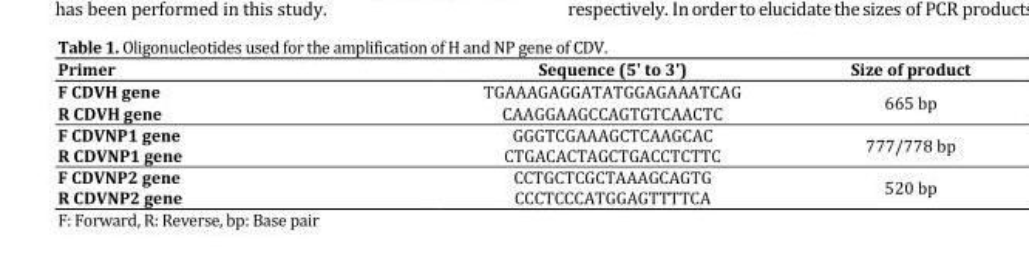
<table><thead><tr><td>Primer</td><td>Sequence (5&#x27; to 3&#x27;)</td><td>Size of product</td></tr></thead><tbody><tr><td>F CDVH gene</td><td>TGAAAGAGGATATGGAGAAATCAG</td><td rowspan="2">665 bp</td></tr><tr><td>R CDVH gene</td><td>CAAGGAAGCCAGTGTCAACTC</td></tr><tr><td>F CDVNP1 gene</td><td>GGGTCGAAAGCTCAAGCAC</td><td rowspan="2">777/778 bp</td></tr><tr><td>R CDVNP1 gene</td><td>CTGACACTAGCTGACCTCTTC</td></tr><tr><td>F CDVNP2 gene</td><td>CCTGCTCGCTAAAGCAGTG</td><td rowspan="2">520 bp</td></tr><tr><td>R CDVNP2 gene</td><td>CCCTCCCATGGAGTTTTCA</td></tr></tbody></table>